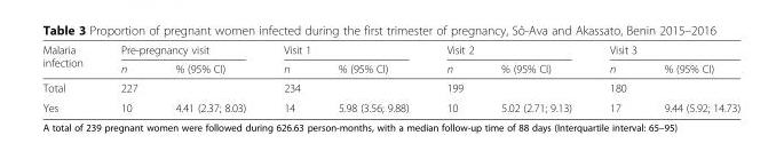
<table><thead><tr><td rowspan="2">Malaria infection</td><td colspan="2">Pre-pregnancy visit</td><td colspan="2">Visit 1</td><td colspan="2">Visit 2</td><td colspan="2">Visit 3</td></tr><tr><td>n</td><td>% (95% CI)</td><td>n</td><td>% (95% CI)</td><td>n</td><td>% (95% CI)</td><td>n</td><td>% (95% CI)</td></tr></thead><tbody><tr><td>Total</td><td>227</td><td></td><td>234</td><td></td><td>199</td><td></td><td>180</td><td></td></tr><tr><td>Yes</td><td>10</td><td>4.41 (2.37; 8.03)</td><td>14</td><td>5.98 (3.56; 9.88)</td><td>10</td><td>5.02 (2.71; 9.13)</td><td>17</td><td>9.44 (5.92; 14.73)</td></tr></tbody></table>